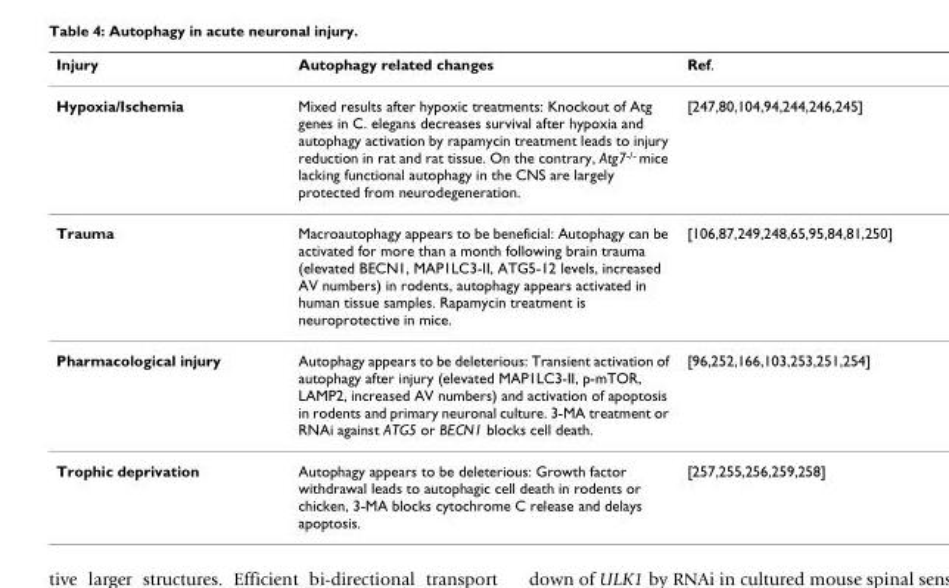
<table><thead><tr><td>Injury</td><td>Autophagy related changes</td><td>Ref.</td></tr></thead><tbody><tr><td>Hypoxia/Ischemia</td><td>Mixed results after hypoxic treatments: Knockout of Atg genes in C. elegans decreases survival after hypoxia and autophagy activation by rapamycin treatment leads to injury reduction in rat and rat tissue. On the contrary, Atg7<sup>-/-</sup> mice lacking functional autophagy in the CNS are largely protected from neurodegeneration.</td><td>[247,80,104,94,244,246,245]</td></tr><tr><td>Trauma</td><td>Macroautophagy appears to be beneficial: Autophagy can be activated for more than a month following brain trauma (elevated BECN1, MAP1LC3-II, ATG5-12 levels, increased AV numbers) in rodents, autophagy appears activated in human tissue samples. Rapamycin treatment is neuroprotective in mice.</td><td>[106,87,249,248,65,95,84,81,250]</td></tr><tr><td>Pharmacological injury</td><td>Autophagy appears to be deleterious: Transient activation of autophagy after injury (elevated MAP1LC3-II, p-mTOR, LAMP2, increased AV numbers) and activation of apoptosis in rodents and primary neuronal culture. 3-MA treatment or RNAi against ATG5 or BECN1 blocks cell death.</td><td>[96,252,166,103,253,251,254]</td></tr><tr><td>Trophic deprivation</td><td>Autophagy appears to be deleterious: Growth factor withdrawal leads to autophagic cell death in rodents or chicken, 3-MA blocks cytochrome C release and delays apoptosis.</td><td>[257,255,256,259,258]</td></tr></tbody></table>